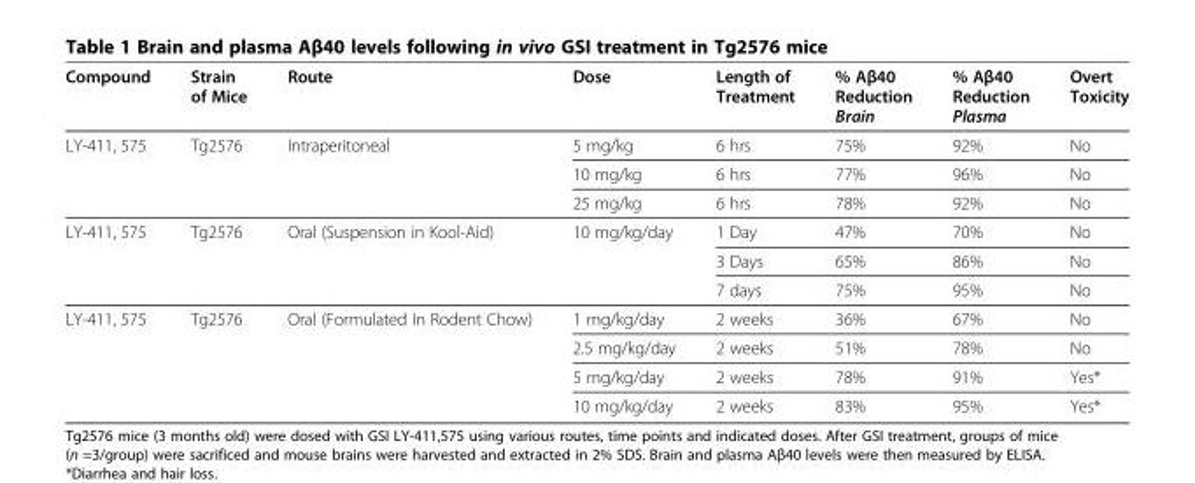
<table><thead><tr><td>Compound</td><td>Strain of Mice</td><td>Route</td><td>Dose</td><td>Length of Treatment</td><td>% Aβ40 Reduction Brain</td><td>% Aβ40 Reduction Plasma</td><td>Overt Toxicity</td></tr></thead><tbody><tr><td rowspan="3">LY-411, 575</td><td rowspan="3">Tg2576</td><td rowspan="3">Intraperitoneal</td><td>5 mg/kg</td><td>6 hrs</td><td>75%</td><td>92%</td><td>No</td></tr><tr><td>10 mg/kg</td><td>6 hrs</td><td>77%</td><td>96%</td><td>No</td></tr><tr><td>25 mg/kg</td><td>6 hrs</td><td>78%</td><td>92%</td><td>No</td></tr><tr><td rowspan="3">LY-411, 575</td><td rowspan="3">Tg2576</td><td rowspan="3">Oral (Suspension in Kool-Aid)</td><td rowspan="3">10 mg/kg/day</td><td>1 Day</td><td>47%</td><td>70%</td><td>No</td></tr><tr><td>3 Days</td><td>65%</td><td>86%</td><td>No</td></tr><tr><td>7 days</td><td>75%</td><td>95%</td><td>No</td></tr><tr><td rowspan="4">LY-411, 575</td><td rowspan="4">Tg2576</td><td rowspan="4">Oral (Formulated In Rodent Chow)</td><td>1 mg/kg/day</td><td>2 weeks</td><td>36%</td><td>67%</td><td>No</td></tr><tr><td>2.5 mg/kg/day</td><td>2 weeks</td><td>51%</td><td>78%</td><td>No</td></tr><tr><td>5 mg/kg/day</td><td>2 weeks</td><td>78%</td><td>91%</td><td>Yes*</td></tr><tr><td>10 mg/kg/day</td><td>2 weeks</td><td>83%</td><td>95%</td><td>Yes*</td></tr></tbody></table>